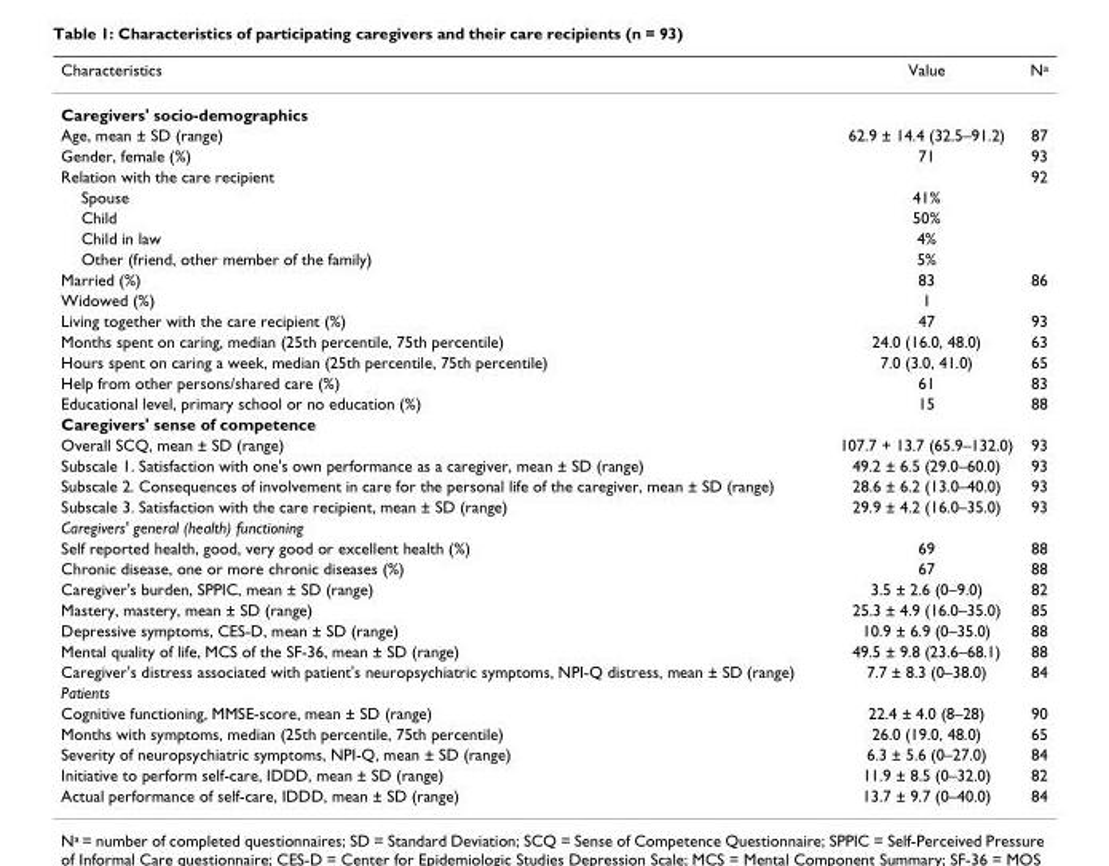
<table><thead><tr><td>Characteristics</td><td>Value</td><td>N<sup>a</sup></td></tr></thead><tbody><tr><td colspan="3">Caregivers&#x27; socio-demographics</td></tr><tr><td>Age, mean ± SD (range)</td><td>62.9 ± 14.4 (32.5–91.2)</td><td>87</td></tr><tr><td>Gender, female (%)</td><td>71</td><td>93</td></tr><tr><td>Relation with the care recipient</td><td></td><td>92</td></tr><tr><td>Spouse</td><td>41%</td><td></td></tr><tr><td>Child</td><td>50%</td><td></td></tr><tr><td>Child in law</td><td>4%</td><td></td></tr><tr><td>Other (friend, other member of the family)</td><td>5%</td><td></td></tr><tr><td>Married (%)</td><td>83</td><td>86</td></tr><tr><td>Widowed (%)</td><td>1</td><td></td></tr><tr><td>Living together with the care recipient (%)</td><td>47</td><td>93</td></tr><tr><td>Months spent on caring, median (25th percentile, 75th percentile)</td><td>24.0 (16.0, 48.0)</td><td>63</td></tr><tr><td>Hours spent on caring a week, median (25th percentile, 75th percentile)</td><td>7.0 (3.0, 41.0)</td><td>65</td></tr><tr><td>Help from other persons/shared care (%)</td><td>61</td><td>83</td></tr><tr><td>Educational level, primary school or no education (%)</td><td>15</td><td>88</td></tr><tr><td colspan="3">Caregivers&#x27; sense of competence</td></tr><tr><td>Overall SCQ, mean ± SD (range)</td><td>107.7 + 13.7 (65.9–132.0)</td><td>93</td></tr><tr><td>Subscale 1. Satisfaction with one&#x27;s own performance as a caregiver, mean ± SD (range)</td><td>49.2 ± 6.5 (29.0–60.0)</td><td>93</td></tr><tr><td>Subscale 2. Consequences of involvement in care for the personal life of the caregiver, mean ± SD (range)</td><td>28.6 ± 6.2 (13.0–40.0)</td><td>93</td></tr><tr><td>Subscale 3. Satisfaction with the care recipient, mean ± SD (range)</td><td>29.9 ± 4.2 (16.0–35.0)</td><td>93</td></tr><tr><td colspan="3">Caregivers&#x27; general (health) functioning</td></tr><tr><td>Self reported health, good, very good or excellent health (%)</td><td>69</td><td>88</td></tr><tr><td>Chronic disease, one or more chronic diseases (%)</td><td>67</td><td>88</td></tr><tr><td>Caregiver&#x27;s burden, SPPIC, mean ± SD (range)</td><td>3.5 ± 2.6 (0–9.0)</td><td>82</td></tr><tr><td>Mastery, mastery, mean ± SD (range)</td><td>25.3 ± 4.9 (16.0–35.0)</td><td>85</td></tr><tr><td>Depressive symptoms, CES-D, mean ± SD (range)</td><td>10.9 ± 6.9 (0–35.0)</td><td>88</td></tr><tr><td>Mental quality of life, MCS of the SF-36, mean ± SD (range)</td><td>49.5 ± 9.8 (23.6–68.1)</td><td>88</td></tr><tr><td>Caregiver&#x27;s distress associated with patient&#x27;s neuropsychiatric symptoms, NPI-Q distress, mean ± SD (range)</td><td>7.7 ± 8.3 (0–38.0)</td><td>84</td></tr><tr><td colspan="3">Patients</td></tr><tr><td>Cognitive functioning, MMSE-score, mean ± SD (range)</td><td>22.4 ± 4.0 (8–28)</td><td>90</td></tr><tr><td>Months with symptoms, median (25th percentile, 75th percentile)</td><td>26.0 (19.0, 48.0)</td><td>65</td></tr><tr><td>Severity of neuropsychiatric symptoms, NPI-Q, mean ± SD (range)</td><td>6.3 ± 5.6 (0–27.0)</td><td>84</td></tr><tr><td>Initiative to perform self-care, IDDD, mean ± SD (range)</td><td>11.9 ± 8.5 (0–32.0)</td><td>82</td></tr><tr><td>Actual performance of self-care, IDDD, mean ± SD (range)</td><td>13.7 ± 9.7 (0–40.0)</td><td>84</td></tr></tbody></table>